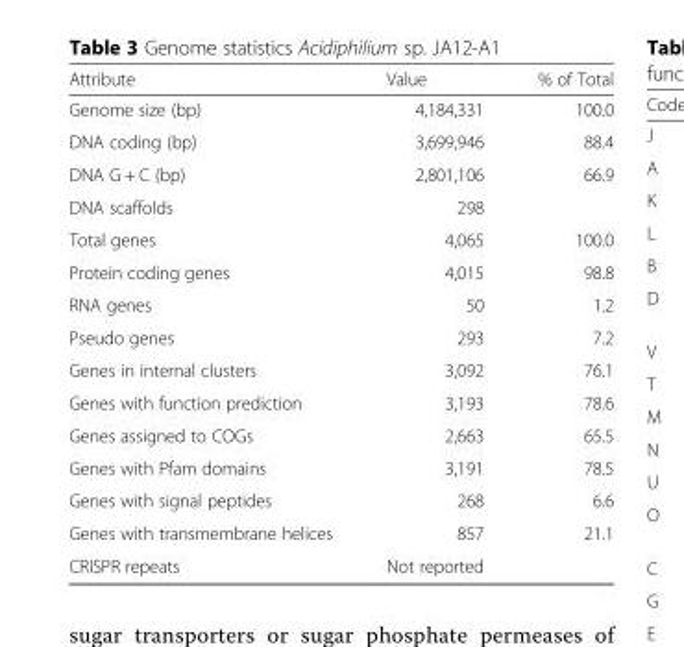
<table><thead><tr><td>Attribute</td><td>Value</td><td>% of Total</td></tr></thead><tbody><tr><td>Genome size (bp)</td><td>4,184,331</td><td>100.0</td></tr><tr><td>DNA coding (bp)</td><td>3,699,946</td><td>88.4</td></tr><tr><td>DNA G + C (bp)</td><td>2,801,106</td><td>66.9</td></tr><tr><td>DNA scaffolds</td><td>298</td><td></td></tr><tr><td>Total genes</td><td>4,065</td><td>100.0</td></tr><tr><td>Protein coding genes</td><td>4,015</td><td>98.8</td></tr><tr><td>RNA genes</td><td>50</td><td>1.2</td></tr><tr><td>Pseudo genes</td><td>293</td><td>7.2</td></tr><tr><td>Genes in internal clusters</td><td>3,092</td><td>76.1</td></tr><tr><td>Genes with function prediction</td><td>3,193</td><td>78.6</td></tr><tr><td>Genes assigned to COGs</td><td>2,663</td><td>65.5</td></tr><tr><td>Genes with Pfam domains</td><td>3,191</td><td>78.5</td></tr><tr><td>Genes with signal peptides</td><td>268</td><td>6.6</td></tr><tr><td>Genes with transmembrane helices</td><td>857</td><td>21.1</td></tr><tr><td>CRISPR repeats</td><td>Not reported</td><td></td></tr></tbody></table>